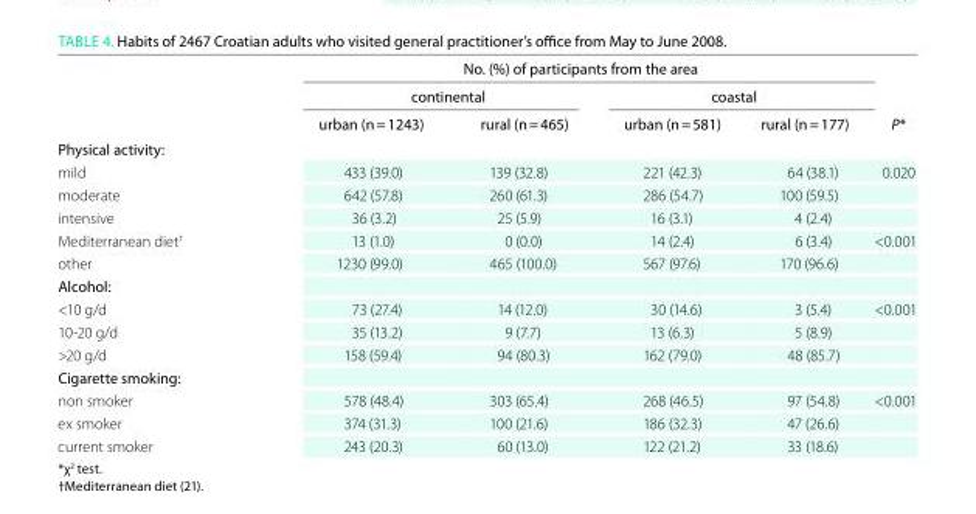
<table><thead><tr><td rowspan="3"></td><td colspan="4">No. (%) of participants from the area</td><td rowspan="3">P*</td></tr><tr><td colspan="2">continental</td><td colspan="2">coastal</td></tr><tr><td>urban (n = 1243)</td><td>rural (n = 465)</td><td>urban (n = 581)</td><td>rural (n = 177)</td></tr></thead><tbody><tr><td colspan="6">Physical activity:</td></tr><tr><td>mild</td><td>433 (39.0)</td><td>139 (32.8)</td><td>221 (42.3)</td><td>64 (38.1)</td><td>0.020</td></tr><tr><td>moderate</td><td>642 (57.8)</td><td>260 (61.3)</td><td>286 (54.7)</td><td>100 (59.5)</td><td></td></tr><tr><td>intensive</td><td>36 (3.2)</td><td>25 (5.9)</td><td>16 (3.1)</td><td>4 (2.4)</td><td></td></tr><tr><td>Mediterranean diet<sup>†</sup></td><td>13 (1.0)</td><td>0 (0.0)</td><td>14 (2.4)</td><td>6 (3.4)</td><td>&lt;0.001</td></tr><tr><td>other</td><td>1230 (99.0)</td><td>465 (100.0)</td><td>567 (97.6)</td><td>170 (96.6)</td><td></td></tr><tr><td colspan="6">alcohol:</td></tr><tr><td>&lt;10 g/d</td><td>73 (27.4)</td><td>14 (12.0)</td><td>30 (14.6)</td><td>3 (5.4)</td><td>&lt;0.001</td></tr><tr><td>10-20 g/d</td><td>35 (13.2)</td><td>9 (7.7)</td><td>13 (6.3)</td><td>5 (8.9)</td><td></td></tr><tr><td>&gt;20 g/d</td><td>158 (59.4)</td><td>94 (80.3)</td><td>162 (79.0)</td><td>48 (85.7)</td><td></td></tr><tr><td colspan="6">Cigarette smoking:</td></tr><tr><td>non smoker</td><td>578 (48.4)</td><td>303 (65.4)</td><td>268 (46.5)</td><td>97 (54.8)</td><td>&lt;0.001</td></tr><tr><td>ex smoker</td><td>374 (31.3)</td><td>100 (21.6)</td><td>186 (32.3)</td><td>47 (26.6)</td><td></td></tr><tr><td>current smoker</td><td>243 (20.3)</td><td>60 (13.0)</td><td>122 (21.2)</td><td>33 (18.6)</td><td></td></tr></tbody></table>